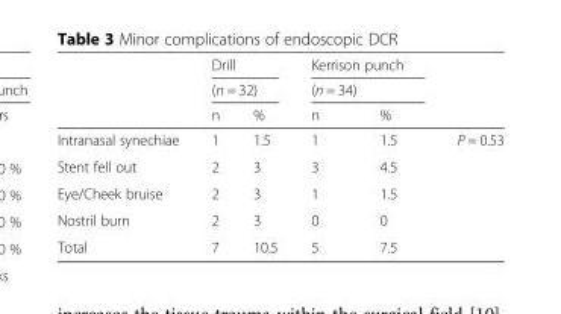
<table><thead><tr><td rowspan="3"></td><td rowspan="2" colspan="2">Drill (n = 32)</td><td rowspan="2" colspan="2">Kerrison punch (n = 34)</td><td rowspan="3"></td></tr><tr></tr><tr><td>n</td><td>%</td><td>n</td><td>%</td></tr></thead><tbody><tr><td>Intranasal synechiae</td><td>1</td><td>1.5</td><td>1</td><td>1.5</td><td rowspan="5">P = 0.53</td></tr><tr><td>Stent fell out</td><td>2</td><td>3</td><td>3</td><td>4.5</td></tr><tr><td>Eye/Cheek bruise</td><td>2</td><td>3</td><td>1</td><td>1.5</td></tr><tr><td>Nostril burn</td><td>2</td><td>3</td><td>0</td><td>0</td></tr><tr><td>Total</td><td>7</td><td>10.5</td><td>5</td><td>7.5</td></tr></tbody></table>